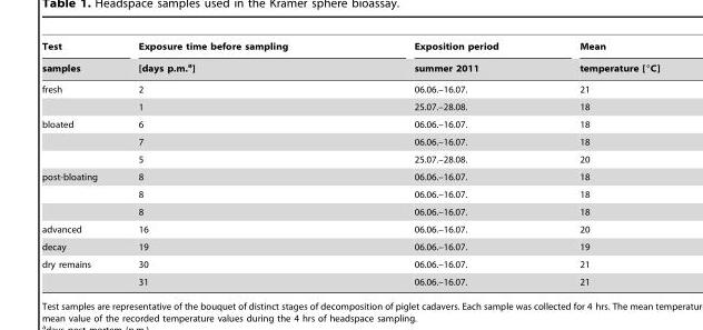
<table><thead><tr><td rowspan="2">Test samples</td><td rowspan="2">Exposure time before sampling [days p.m.<sup>a</sup>]</td><td rowspan="2">Exposition period summer 2011</td><td rowspan="2">Mean temperature [°C]</td></tr><tr></tr></thead><tbody><tr><td rowspan="2">fresh</td><td>2</td><td>06.06.–16.07.</td><td>21</td></tr><tr><td>1</td><td>25.07.–28.08.</td><td>18</td></tr><tr><td rowspan="3">bloated</td><td>6</td><td>06.06.–16.07.</td><td>18</td></tr><tr><td>7</td><td>06.06.–16.07.</td><td>18</td></tr><tr><td>5</td><td>25.07.–28.08.</td><td>20</td></tr><tr><td rowspan="3">post-bloating</td><td>8</td><td>06.06.–16.07.</td><td>18</td></tr><tr><td>8</td><td>06.06.–16.07.</td><td>18</td></tr><tr><td>8</td><td>06.06.–16.07.</td><td>18</td></tr><tr><td>advanced</td><td>16</td><td>06.06.–16.07.</td><td>20</td></tr><tr><td>decay</td><td>19</td><td>06.06.–16.07.</td><td>19</td></tr><tr><td rowspan="2">dry remains</td><td>30</td><td>06.06.–16.07.</td><td>21</td></tr><tr><td>31</td><td>06.06.–16.07.</td><td>21</td></tr></tbody></table>